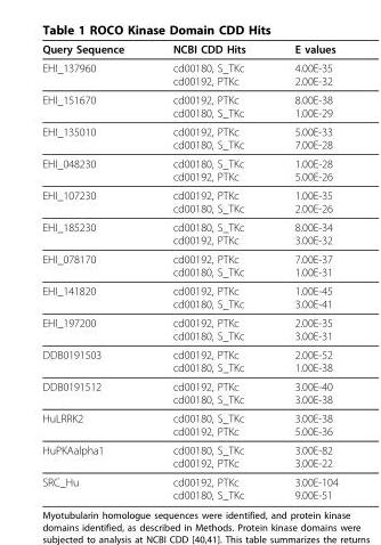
<table><thead><tr><td>Query Sequence</td><td>NCBI CDD Hits</td><td>E values</td></tr></thead><tbody><tr><td>EHI_137960</td><td>cd00180, S_TKc cd00192, PTKc</td><td>4.00E-35 2.00E-32</td></tr><tr><td>EHI_151670</td><td>cd00192, PTKc cd00180, S_TKc</td><td>8.00E-38 1.00E-29</td></tr><tr><td>EHI_135010</td><td>cd00192, PTKc cd00180, S_TKc</td><td>5.00E-33 7.00E-28</td></tr><tr><td>EHI_048230</td><td>cd00180, S_TKc cd00192, PTKc</td><td>1.00E-28 5.00E-26</td></tr><tr><td>EHI_107230</td><td>cd00192, PTKc cd00180, S_TKc</td><td>1.00E-35 2.00E-26</td></tr><tr><td>EHI_185230</td><td>cd00180, S_TKc cd00192, PTKc</td><td>8.00E-34 3.00E-32</td></tr><tr><td>EHI_078170</td><td>cd00192, PTKc cd00180, S_TKc</td><td>7.00E-37 1.00E-31</td></tr><tr><td>EHI_141820</td><td>cd00192, PTKc cd00180, S_TKc</td><td>1.00E-45 3.00E-41</td></tr><tr><td>EHI_197200</td><td>cd00192, PTKc cd00180, S_TKc</td><td>2.00E-35 3.00E-31</td></tr><tr><td>DDB0191503</td><td>cd00192, PTKc cd00180, S_TKc</td><td>2.00E-52 1.00E-38</td></tr><tr><td>DDB0191512</td><td>cd00192, PTKc cd00180, S_TKc</td><td>3.00E-40 3.00E-38</td></tr><tr><td>HuLRRK2</td><td>cd00180, S_TKc cd00192, PTKc</td><td>3.00E-38 5.00E-36</td></tr><tr><td>HuPKAalpha1</td><td>cd00180, S_TKc cd00192, PTKc</td><td>3.00E-82 3.00E-22</td></tr><tr><td>SRC_Hu</td><td>cd00192, PTKc cd00180, S_TKc</td><td>3.00E-104 9.00E-51</td></tr></tbody></table>